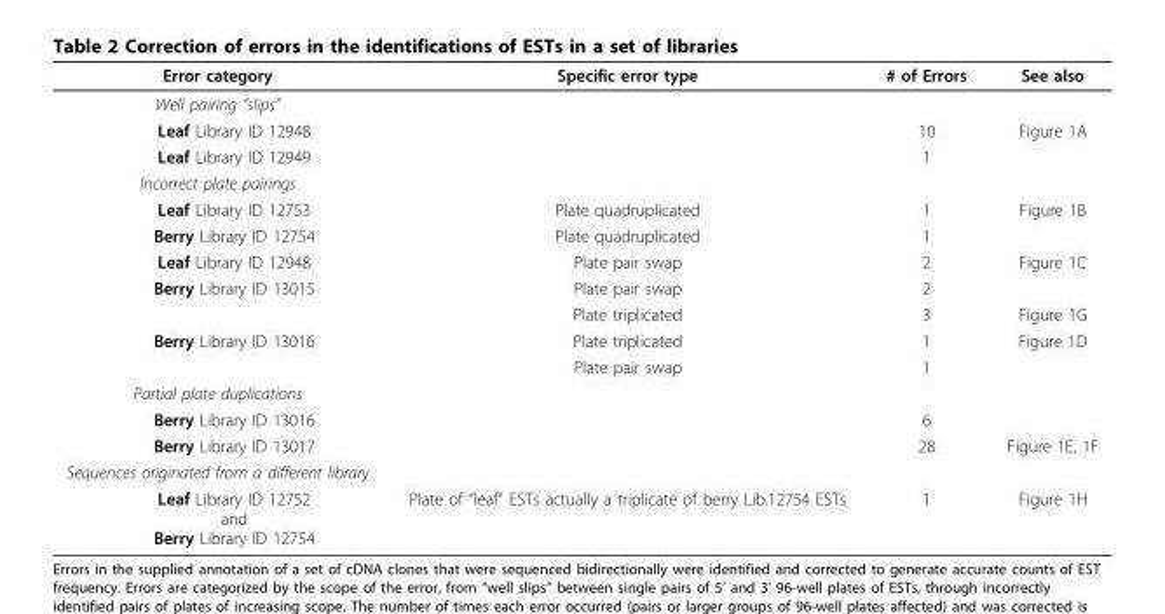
<table><thead><tr><td>Error category</td><td>Specific error type</td><td># of Errors</td><td>See also</td></tr></thead><tbody><tr><td colspan="4">Well pairing “slips”</td></tr><tr><td>Leaf Library ID 12948</td><td></td><td>10</td><td>Figure 1A</td></tr><tr><td>Leaf Library ID 12949</td><td></td><td>1</td><td></td></tr><tr><td colspan="4">Incorrect plate pairings</td></tr><tr><td>Leaf Library ID 12753</td><td>Plate quadruplicated</td><td>1</td><td>Figure 1B</td></tr><tr><td>Berry Library ID 12754</td><td>Plate quadruplicated</td><td>1</td><td></td></tr><tr><td>Leaf Library ID 12948</td><td>Plate pair swap</td><td>2</td><td>Figure 1C</td></tr><tr><td rowspan="2">Berry Library ID 13015</td><td>Plate pair swap</td><td>2</td><td></td></tr><tr><td>Plate triplicated</td><td>3</td><td>Figure 1G</td></tr><tr><td rowspan="2">Berry Library ID 13016</td><td>Plate triplicated</td><td>1</td><td>Figure 1D</td></tr><tr><td>Plate pair swap</td><td>1</td><td></td></tr><tr><td colspan="4">Partial plate duplications</td></tr><tr><td>Berry Library ID 13016</td><td></td><td>6</td><td></td></tr><tr><td>Berry Library ID 13017</td><td></td><td>28</td><td>Figure 1E, 1F</td></tr><tr><td colspan="4">Sequences originated from a different library</td></tr><tr><td>Leaf Library ID 12752 and Berry Library ID 12754</td><td>Plate of “leaf” ESTs actually a triplicate of berry Lib.12754 ESTs</td><td>1</td><td>Figure 1H</td></tr></tbody></table>